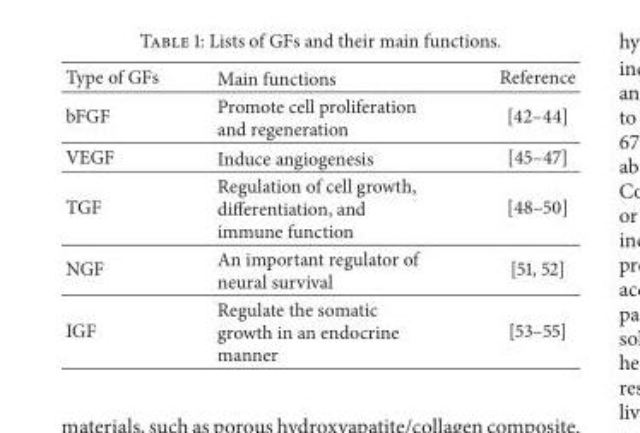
<table><thead><tr><td>Type of GFs</td><td>Main functions</td><td>Reference</td></tr></thead><tbody><tr><td>bFGF</td><td>Promote cell proliferation and regeneration</td><td>[42–44]</td></tr><tr><td>VEGF</td><td>Induce angiogenesis</td><td>[45–47]</td></tr><tr><td>TGF</td><td>Regulation of cell growth, differentiation, and immune function</td><td>[48–50]</td></tr><tr><td>NGF</td><td>An important regulator of neural survival</td><td>[51, 52]</td></tr><tr><td>IGF</td><td>Regulate the somatic growth in an endocrine manner</td><td>[53–55]</td></tr></tbody></table>